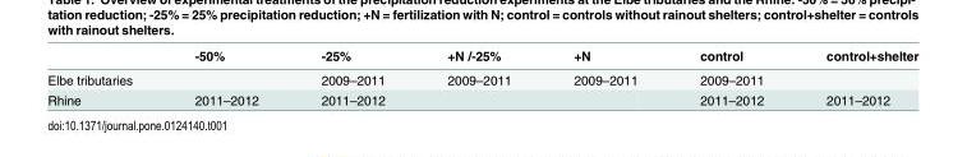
<table><thead><tr><td></td><td>-50%</td><td>-25%</td><td>+N /-25%</td><td>+N</td><td>control</td><td>control+shelter</td></tr></thead><tbody><tr><td>Elbe tributaries</td><td></td><td>2009–2011</td><td>2009–2011</td><td>2009–2011</td><td>2009–2011</td><td></td></tr><tr><td>Rhine</td><td>2011–2012</td><td>2011–2012</td><td></td><td></td><td>2011–2012</td><td>2011–2012</td></tr></tbody></table>